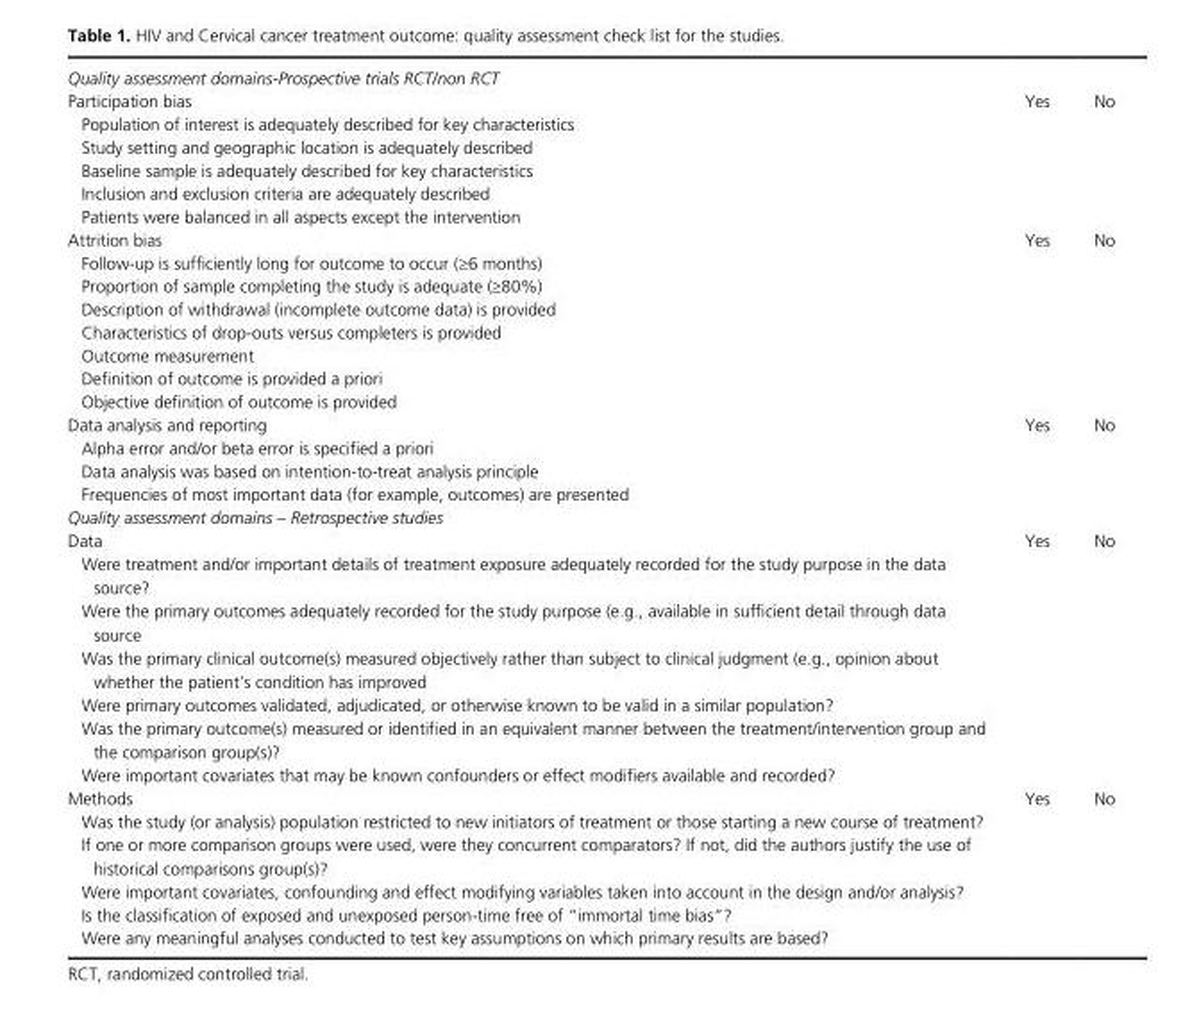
<table><tbody><tr><td colspan="3">Quality assessment domains-Prospective trials RCT/non RCT</td></tr><tr><td>Participation bias</td><td>Yes</td><td>No</td></tr><tr><td colspan="3">Population of interest is adequately described for key characteristics</td></tr><tr><td colspan="3">Study setting and geographic location is adequately described</td></tr><tr><td colspan="3">Baseline sample is adequately described for key characteristics</td></tr><tr><td colspan="3">Inclusion and exclusion criteria are adequately described</td></tr><tr><td colspan="3">Patients were balanced in all aspects except the intervention</td></tr><tr><td>Attrition bias</td><td>Yes</td><td>No</td></tr><tr><td colspan="3">Follow- up is sufficiently long for outcome to occur (≥6 months)</td></tr><tr><td colspan="3">Proportion of sample completing the study is adequate (≥80%)</td></tr><tr><td colspan="3">Description of withdrawal (incomplete outcome data) is provided</td></tr><tr><td colspan="3">Characteristics of drop- outs versus completers is provided</td></tr><tr><td colspan="3">Outcome measurement</td></tr><tr><td colspan="3">Definition of outcome is provided a priori</td></tr><tr><td colspan="3">Objective definition of outcome is provided</td></tr><tr><td>Data analysis and reporting</td><td>Yes</td><td>No</td></tr><tr><td colspan="3">Alpha error and/or beta error is specified a priori</td></tr><tr><td colspan="3">Data analysis was based on intention- to- treat analysis principle</td></tr><tr><td colspan="3">Frequencies of most important data (for example, outcomes) are presented</td></tr><tr><td colspan="3">Quality assessment domains – Retrospective studies</td></tr><tr><td>Data</td><td>Yes</td><td>No</td></tr><tr><td colspan="3">Were treatment and/or important details of treatment exposure adequately recorded for the study purpose in the data source?</td></tr><tr><td colspan="3">Were the primary outcomes adequately recorded for the study purpose (e.g., available in sufficient detail through data source</td></tr><tr><td colspan="3">Was the primary clinical outcome(s) measured objectively rather than subject to clinical judgment (e.g., opinion about whether the patient’s condition has improved</td></tr><tr><td colspan="3">Were primary outcomes validated, adjudicated, or otherwise known to be valid in a similar population?</td></tr><tr><td colspan="3">Was the primary outcome(s) measured or identified in an equivalent manner between the treatment/intervention group and the comparison group(s)?</td></tr><tr><td colspan="3">Were important covariates that may be known confounders or effect modifiers available and recorded?</td></tr><tr><td>Methods</td><td>Yes</td><td>No</td></tr><tr><td colspan="3">Was the study (or analysis) population restricted to new initiators of treatment or those starting a new course of treatment?</td></tr><tr><td colspan="3">If one or more comparison groups were used, were they concurrent comparators? If not, did the authors justify the use of historical comparisons group(s)?</td></tr><tr><td colspan="3">Were important covariates, confounding and effect modifying variables taken into account in the design and/or analysis?</td></tr><tr><td colspan="3">Is the classification of exposed and unexposed person- time free of “immortal time bias”?</td></tr><tr><td>Were any meaningful analyses conducted to test key assumptions on which primary results are based?</td><td></td><td></td></tr></tbody></table>